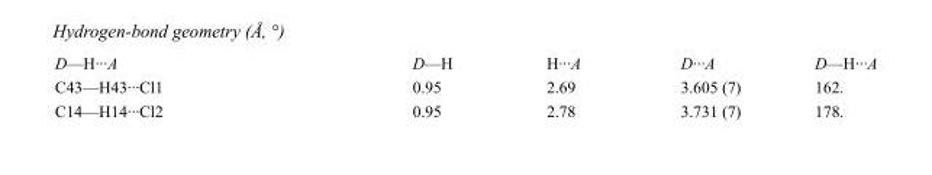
<table><tbody><tr><td>D—H···A</td><td>D—H</td><td>H···A</td><td>D···A</td><td>D—H···A</td></tr><tr><td>C43—H43···Cl1</td><td>0.95</td><td>2.69</td><td>3.605 (7)</td><td>162.</td></tr><tr><td>C14—H14···Cl2</td><td>0.95</td><td>2.78</td><td>3.731 (7)</td><td>178.</td></tr></tbody></table>